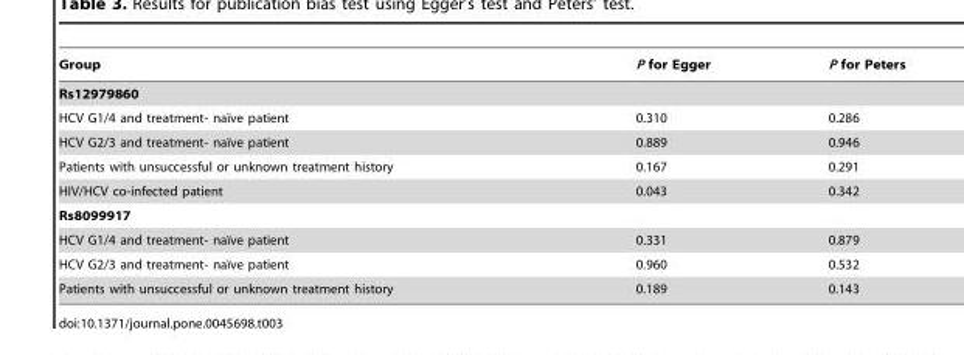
<table><thead><tr><td>Group</td><td>P for Egger</td><td>P for Peters</td></tr></thead><tbody><tr><td colspan="3">Rs12979860</td></tr><tr><td>HCV G1/4 and treatment- naı¨ve patient</td><td>0.310</td><td>0.286</td></tr><tr><td>HCV G2/3 and treatment- naı¨ve patient</td><td>0.889</td><td>0.946</td></tr><tr><td>Patients with unsuccessful or unknown treatment history</td><td>0.167</td><td>0.291</td></tr><tr><td>HIV/HCV co-infected patient</td><td>0.043</td><td>0.342</td></tr><tr><td colspan="3">Rs8099917</td></tr><tr><td>HCV G1/4 and treatment- naı¨ve patient</td><td>0.331</td><td>0.879</td></tr><tr><td>HCV G2/3 and treatment- naı¨ve patient</td><td>0.960</td><td>0.532</td></tr><tr><td>Patients with unsuccessful or unknown treatment history</td><td>0.189</td><td>0.143</td></tr></tbody></table>